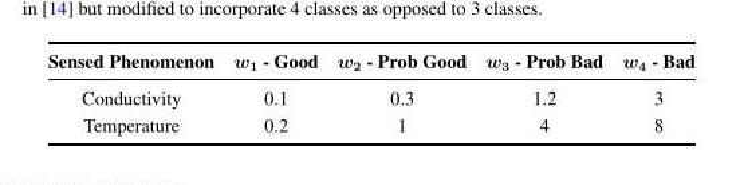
<table><thead><tr><td>Sensed Phenomenon</td><td>w<sub>1</sub> - Good</td><td>w<sub>2</sub> - Prob Good</td><td>w<sub>3</sub> - Prob Bad</td><td>w<sub>4</sub> - Bad</td></tr></thead><tbody><tr><td>Conductivity</td><td>0.1</td><td>0.3</td><td>1.2</td><td>3</td></tr><tr><td>Temperature</td><td>0.2</td><td>1</td><td>4</td><td>8</td></tr></tbody></table>